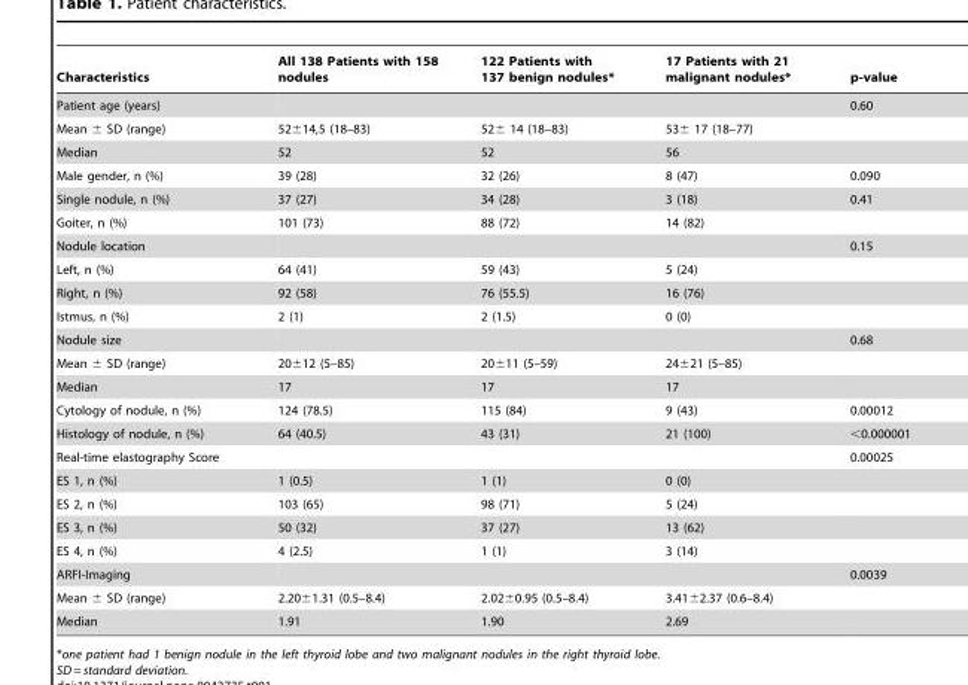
<table><thead><tr><td>Characteristics</td><td>All 138 Patients with 158 nodules</td><td>122 Patients with 137 benign nodules*</td><td>17 Patients with 21 malignant nodules*</td><td>p-value</td></tr></thead><tbody><tr><td>Patient age (years)</td><td></td><td></td><td></td><td>0.60</td></tr><tr><td>Mean ± SD (range)</td><td>52±14,5 (18–83)</td><td>52± 14 (18–83)</td><td>53± 17 (18–77)</td><td></td></tr><tr><td>Median</td><td>52</td><td>52</td><td>56</td><td></td></tr><tr><td>Male gender, n (%)</td><td>39 (28)</td><td>32 (26)</td><td>8 (47)</td><td>0.090</td></tr><tr><td>Single nodule, n (%)</td><td>37 (27)</td><td>34 (28)</td><td>3 (18)</td><td>0.41</td></tr><tr><td>Goiter, n (%)</td><td>101 (73)</td><td>88 (72)</td><td>14 (82)</td><td></td></tr><tr><td>Nodule location</td><td></td><td></td><td></td><td>0.15</td></tr><tr><td>Left, n (%)</td><td>64 (41)</td><td>59 (43)</td><td>5 (24)</td><td></td></tr><tr><td>Right, n (%)</td><td>92 (58)</td><td>76 (55.5)</td><td>16 (76)</td><td></td></tr><tr><td>Istmus, n (%)</td><td>2 (1)</td><td>2 (1.5)</td><td>0 (0)</td><td></td></tr><tr><td>Nodule size</td><td></td><td></td><td></td><td>0.68</td></tr><tr><td>Mean ± SD (range)</td><td>20±12 (5–85)</td><td>20±11 (5–59)</td><td>24±21 (5–85)</td><td></td></tr><tr><td>Median</td><td>17</td><td>17</td><td>17</td><td></td></tr><tr><td>Cytology of nodule, n (%)</td><td>124 (78.5)</td><td>115 (84)</td><td>9 (43)</td><td>0.00012</td></tr><tr><td>Histology of nodule, n (%)</td><td>64 (40.5)</td><td>43 (31)</td><td>21 (100)</td><td>&lt;0.000001</td></tr><tr><td>Real-time elastography Score</td><td></td><td></td><td></td><td>0.00025</td></tr><tr><td>ES 1, n (%)</td><td>1 (0.5)</td><td>1 (1)</td><td>0 (0)</td><td></td></tr><tr><td>ES 2, n (%)</td><td>103 (65)</td><td>98 (71)</td><td>5 (24)</td><td></td></tr><tr><td>ES 3, n (%)</td><td>50 (32)</td><td>37 (27)</td><td>13 (62)</td><td></td></tr><tr><td>ES 4, n (%)</td><td>4 (2.5)</td><td>1 (1)</td><td>3 (14)</td><td></td></tr><tr><td>ARFI-Imaging</td><td></td><td></td><td></td><td>0.0039</td></tr><tr><td>Mean ± SD (range)</td><td>2.20±1.31 (0.5–8.4)</td><td>2.02±0.95 (0.5–8.4)</td><td>3.41±2.37 (0.6–8.4)</td><td></td></tr><tr><td>Median</td><td>1.91</td><td>1.90</td><td>2.69</td><td></td></tr></tbody></table>